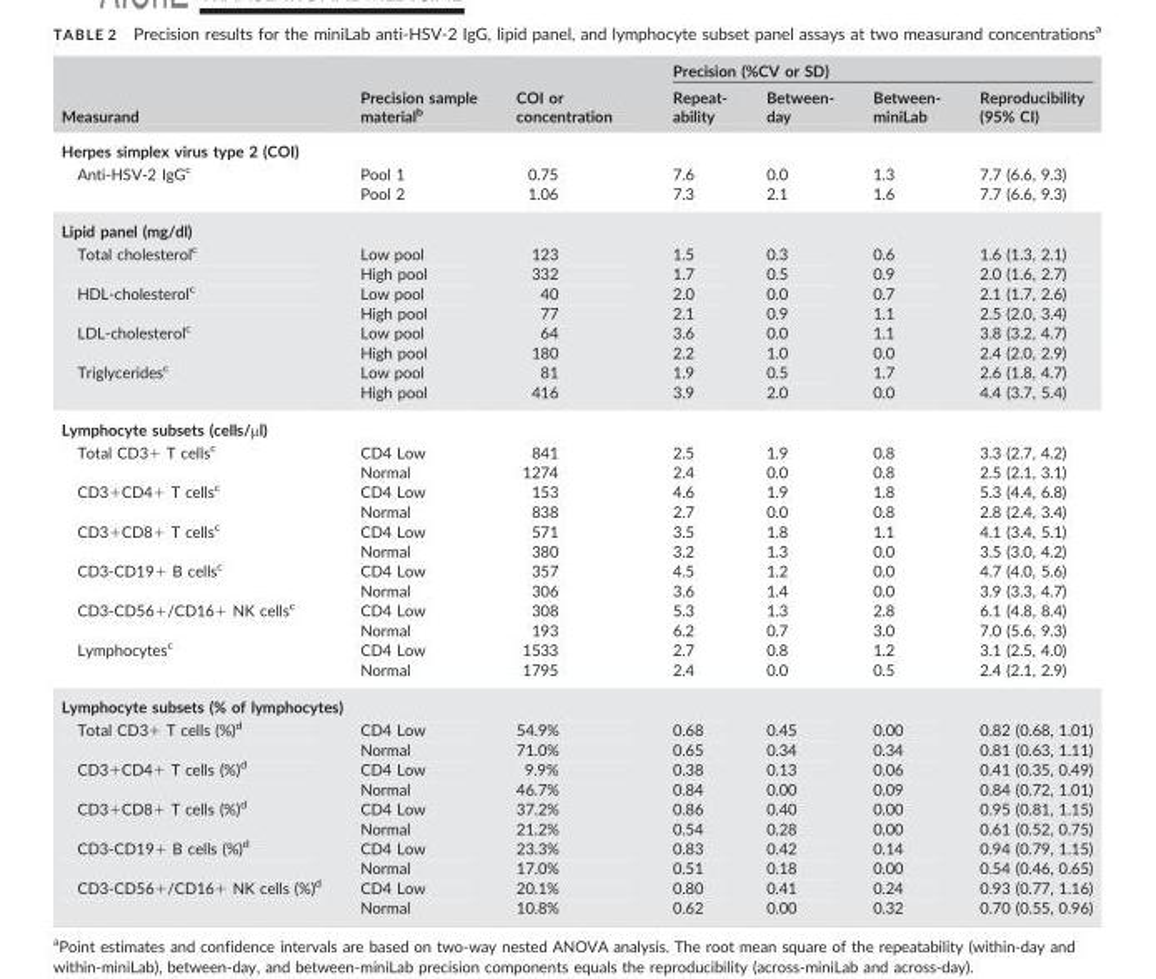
<table><thead><tr><td rowspan="2">Measurand</td><td rowspan="2">Precision sample material<sup>b</sup></td><td rowspan="2">COI or concentration</td><td colspan="4">Precision (%CV or SD)</td></tr><tr><td>Repeat- ability</td><td>Between- day</td><td>Between- miniLab</td><td>Reproducibility (95% CI)</td></tr></thead><tbody><tr><td colspan="7">Herpes simplex virus type 2 (COI)</td></tr><tr><td rowspan="2">Anti-HSV-2 IgG<sup>c</sup></td><td>Pool 1</td><td>0.75</td><td>7.6</td><td>0.0</td><td>1.3</td><td>7.7 (6.6, 9.3)</td></tr><tr><td>Pool 2</td><td>1.06</td><td>7.3</td><td>2.1</td><td>1.6</td><td>7.7 (6.6, 9.3)</td></tr><tr><td colspan="7">Lipid panel (mg/dl)</td></tr><tr><td rowspan="2">Total cholesterol<sup>c</sup></td><td>Low pool</td><td>123</td><td>1.5</td><td>0.3</td><td>0.6</td><td>1.6 (1.3, 2.1)</td></tr><tr><td>High pool</td><td>332</td><td>1.7</td><td>0.5</td><td>0.9</td><td>2.0 (1.6, 2.7)</td></tr><tr><td rowspan="2">HDL-cholesterol<sup>c</sup></td><td>Low pool</td><td>40</td><td>2.0</td><td>0.0</td><td>0.7</td><td>2.1 (1.7, 2.6)</td></tr><tr><td>High pool</td><td>77</td><td>2.1</td><td>0.9</td><td>1.1</td><td>2.5 (2.0, 3.4)</td></tr><tr><td rowspan="2">LDL-cholesterol<sup>c</sup></td><td>Low pool</td><td>64</td><td>3.6</td><td>0.0</td><td>1.1</td><td>3.8 (3.2, 4.7)</td></tr><tr><td>High pool</td><td>180</td><td>2.2</td><td>1.0</td><td>0.0</td><td>2.4 (2.0, 2.9)</td></tr><tr><td rowspan="2">Triglycerides<sup>c</sup></td><td>Low pool</td><td>81</td><td>1.9</td><td>0.5</td><td>1.7</td><td>2.6 (1.8, 4.7)</td></tr><tr><td>High pool</td><td>416</td><td>3.9</td><td>2.0</td><td>0.0</td><td>4.4 (3.7, 5.4)</td></tr><tr><td colspan="7">Lymphocyte subsets (cells/µl)</td></tr><tr><td rowspan="2">Total CD3+ T cells<sup>c</sup></td><td>CD4 Low</td><td>841</td><td>2.5</td><td>1.9</td><td>0.8</td><td>3.3 (2.7, 4.2)</td></tr><tr><td>Normal</td><td>1274</td><td>2.4</td><td>0.0</td><td>0.8</td><td>2.5 (2.1, 3.1)</td></tr><tr><td rowspan="2">CD3+CD4+ T cells<sup>c</sup></td><td>CD4 Low</td><td>153</td><td>4.6</td><td>1.9</td><td>1.8</td><td>5.3 (4.4, 6.8)</td></tr><tr><td>Normal</td><td>838</td><td>2.7</td><td>0.0</td><td>0.8</td><td>2.8 (2.4, 3.4)</td></tr><tr><td rowspan="2">CD3+CD8+ T cells<sup>c</sup></td><td>CD4 Low</td><td>571</td><td>3.5</td><td>1.8</td><td>1.1</td><td>4.1 (3.4, 5.1)</td></tr><tr><td>Normal</td><td>380</td><td>3.2</td><td>1.3</td><td>0.0</td><td>3.5 (3.0, 4.2)</td></tr><tr><td rowspan="2">CD3-CD19+ B cells<sup>c</sup></td><td>CD4 Low</td><td>357</td><td>4.5</td><td>1.2</td><td>0.0</td><td>4.7 (4.0, 5.6)</td></tr><tr><td>Normal</td><td>306</td><td>3.6</td><td>1.4</td><td>0.0</td><td>3.9 (3.3, 4.7)</td></tr><tr><td rowspan="2">CD3-CD56+/CD16+ NK cells<sup>c</sup></td><td>CD4 Low</td><td>308</td><td>5.3</td><td>1.3</td><td>2.8</td><td>6.1 (4.8, 8.4)</td></tr><tr><td>Normal</td><td>193</td><td>6.2</td><td>0.7</td><td>3.0</td><td>7.0 (5.6, 9.3)</td></tr><tr><td rowspan="2">Lymphocytes<sup>c</sup></td><td>CD4 Low</td><td>1533</td><td>2.7</td><td>0.8</td><td>1.2</td><td>3.1 (2.5, 4.0)</td></tr><tr><td>Normal</td><td>1795</td><td>2.4</td><td>0.0</td><td>0.5</td><td>2.4 (2.1, 2.9)</td></tr><tr><td colspan="7">Lymphocyte subsets (% of lymphocytes)</td></tr><tr><td rowspan="2">Total CD3+ T cells (%)<sup>d</sup></td><td>CD4 Low</td><td>54.9%</td><td>0.68</td><td>0.45</td><td>0.00</td><td>0.82 (0.68, 1.01)</td></tr><tr><td>Normal</td><td>71.0%</td><td>0.65</td><td>0.34</td><td>0.34</td><td>0.81 (0.63, 1.11)</td></tr><tr><td rowspan="2">CD3+CD4+ T cells (%)<sup>d</sup></td><td>CD4 Low</td><td>9.9%</td><td>0.38</td><td>0.13</td><td>0.06</td><td>0.41 (0.35, 0.49)</td></tr><tr><td>Normal</td><td>46.7%</td><td>0.84</td><td>0.00</td><td>0.09</td><td>0.84 (0.72, 1.01)</td></tr><tr><td rowspan="2">CD3+CD8+ T cells (%)<sup>d</sup></td><td>CD4 Low</td><td>37.2%</td><td>0.86</td><td>0.40</td><td>0.00</td><td>0.95 (0.81, 1.15)</td></tr><tr><td>Normal</td><td>21.2%</td><td>0.54</td><td>0.28</td><td>0.00</td><td>0.61 (0.52, 0.75)</td></tr><tr><td rowspan="2">CD3-CD19+ B cells (%)<sup>d</sup></td><td>CD4 Low</td><td>23.3%</td><td>0.83</td><td>0.42</td><td>0.14</td><td>0.94 (0.79, 1.15)</td></tr><tr><td>Normal</td><td>17.0%</td><td>0.51</td><td>0.18</td><td>0.00</td><td>0.54 (0.46, 0.65)</td></tr><tr><td rowspan="2">CD3-CD56+/CD16+ NK cells (%)<sup>d</sup></td><td>CD4 Low</td><td>20.1%</td><td>0.80</td><td>0.41</td><td>0.24</td><td>0.93 (0.77, 1.16)</td></tr><tr><td>Normal</td><td>10.8%</td><td>0.62</td><td>0.00</td><td>0.32</td><td>0.70 (0.55, 0.96)</td></tr></tbody></table>